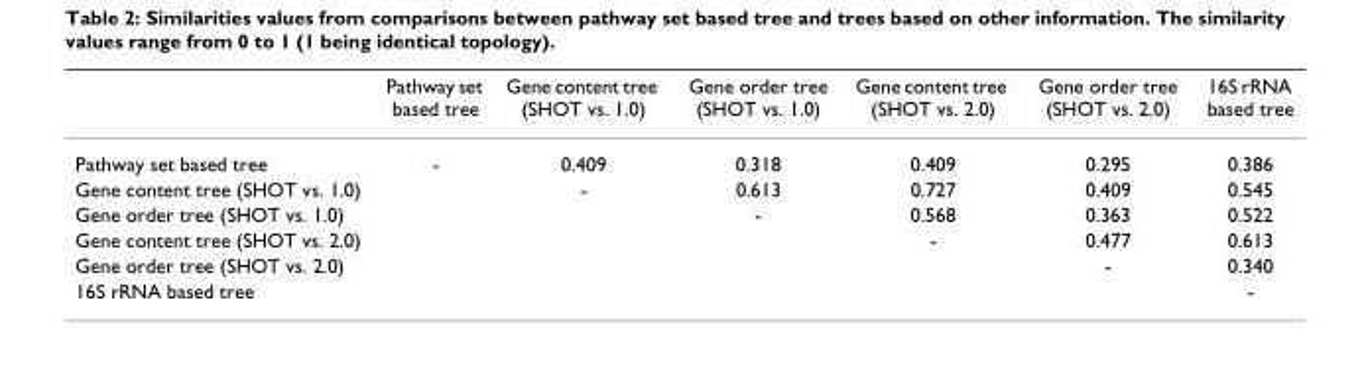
<table><thead><tr><td></td><td>Pathway set based tree</td><td>Gene content tree (SHOT vs. 1.0)</td><td>Gene order tree (SHOT vs. 1.0)</td><td>Gene content tree (SHOT vs. 2.0)</td><td>Gene order tree (SHOT vs. 2.0)</td><td>16S rRNA based tree</td></tr></thead><tbody><tr><td>Pathway set based tree</td><td>-</td><td>0.409</td><td>0.318</td><td>0.409</td><td>0.295</td><td>0.386</td></tr><tr><td>Gene content tree (SHOT vs. 1.0)</td><td></td><td>-</td><td>0.613</td><td>0.727</td><td>0.409</td><td>0.545</td></tr><tr><td>Gene order tree (SHOT vs. 1.0)</td><td></td><td></td><td>-</td><td>0.568</td><td>0.363</td><td>0.522</td></tr><tr><td>Gene content tree (SHOT vs. 2.0)</td><td></td><td></td><td></td><td>-</td><td>0.477</td><td>0.613</td></tr><tr><td>Gene order tree (SHOT vs. 2.0)</td><td></td><td></td><td></td><td></td><td>-</td><td>0.340</td></tr><tr><td>16S rRNA based tree</td><td></td><td></td><td></td><td></td><td></td><td>-</td></tr></tbody></table>